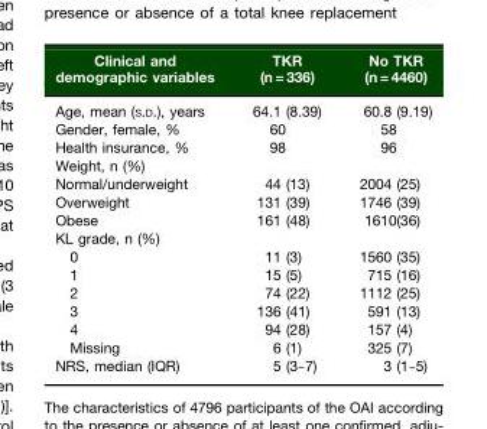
<table><thead><tr><td>Clinical and demographic variables</td><td>TKR (n = 336)</td><td>No TKR (n = 4460)</td></tr></thead><tbody><tr><td>Age, mean (S.D.), years</td><td>64.1 (8.39)</td><td>60.8 (9.19)</td></tr><tr><td>Gender, female, %</td><td>60</td><td>58</td></tr><tr><td>Health insurance, %</td><td>98</td><td>96</td></tr><tr><td colspan="3">Weight, n (%)</td></tr><tr><td>Normal/underweight</td><td>44 (13)</td><td>2004 (25)</td></tr><tr><td>Overweight</td><td>131 (39)</td><td>1746 (39)</td></tr><tr><td>Obese</td><td>161 (48)</td><td>1610(36)</td></tr><tr><td colspan="3">KL grade, n (%)</td></tr><tr><td>0</td><td>11 (3)</td><td>1560 (35)</td></tr><tr><td>1</td><td>15 (5)</td><td>715 (16)</td></tr><tr><td>2</td><td>74 (22)</td><td>1112 (25)</td></tr><tr><td>3</td><td>136 (41)</td><td>591 (13)</td></tr><tr><td>4</td><td>94 (28)</td><td>157 (4)</td></tr><tr><td>Missing</td><td>6 (1)</td><td>325 (7)</td></tr><tr><td>NRS, median (IQR)</td><td>5 (3–7)</td><td>3 (1–5)</td></tr></tbody></table>